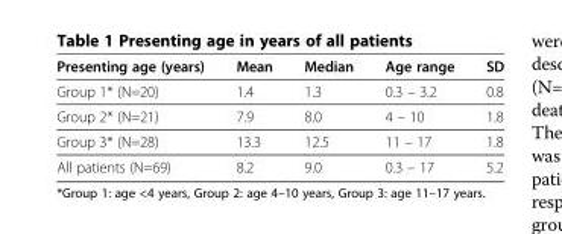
<table><thead><tr><td>Presenting age (years)</td><td>Mean</td><td>Median</td><td>Age range</td><td>SD</td></tr></thead><tbody><tr><td>Group 1* (N=20)</td><td>1.4</td><td>1.3</td><td>0.3 – 3.2</td><td>0.8</td></tr><tr><td>Group 2* (N=21)</td><td>7.9</td><td>8.0</td><td>4 – 10</td><td>1.8</td></tr><tr><td>Group 3* (N=28)</td><td>13.3</td><td>12.5</td><td>11 – 17</td><td>1.8</td></tr><tr><td>All patients (N=69)</td><td>8.2</td><td>9.0</td><td>0.3 – 17</td><td>5.2</td></tr></tbody></table>